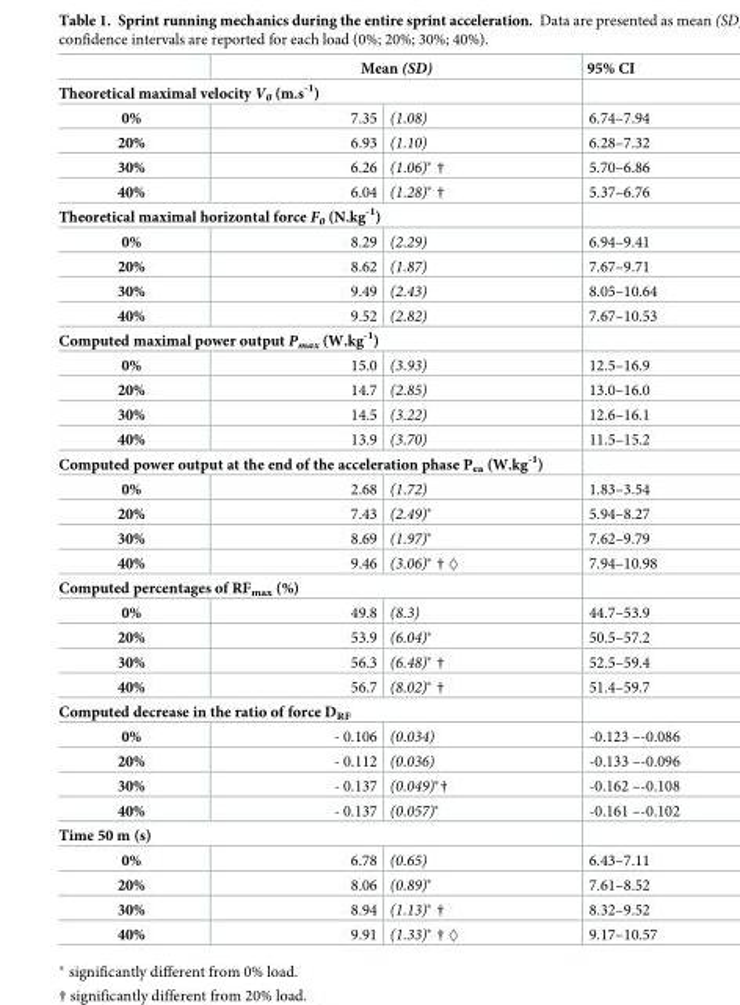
<table><thead><tr><td></td><td colspan="2">Mean (SD)</td><td rowspan="3">95% CI 6.74–7.94</td></tr><tr><td colspan="3">Theoretical maximal velocity V<sub>0</sub> (m.s<sup>-1</sup>)</td></tr><tr><td>0%</td><td>7.35</td><td>(1.08)</td></tr></thead><tbody><tr><td>20%</td><td>6.93</td><td>(1.10)</td><td>6.28–7.32</td></tr><tr><td>30%</td><td>6.26</td><td>(1.06)* †</td><td>5.70–6.86</td></tr><tr><td>40%</td><td>6.04</td><td>(1.28)* †</td><td>5.37–6.76</td></tr><tr><td colspan="4">Theoretical maximal horizontal force F<sub>0</sub> (N.kg<sup>-1</sup>)</td></tr><tr><td>0%</td><td>8.29</td><td>(2.29)</td><td>6.94–9.41</td></tr><tr><td>20%</td><td>8.62</td><td>(1.87)</td><td>7.67–9.71</td></tr><tr><td>30%</td><td>9.49</td><td>(2.43)</td><td>8.05–10.64</td></tr><tr><td>40%</td><td>9.52</td><td>(2.82)</td><td>7.67–10.53</td></tr><tr><td colspan="4">Computed maximal power output P<sub>max</sub> (W.kg<sup>-1</sup>)</td></tr><tr><td>0%</td><td>15.0</td><td>(3.93)</td><td>12.5–16.9</td></tr><tr><td>20%</td><td>14.7</td><td>(2.85)</td><td>13.0–16.0</td></tr><tr><td>30%</td><td>14.5</td><td>(3.22)</td><td>12.6–16.1</td></tr><tr><td>40%</td><td>13.9</td><td>(3.70)</td><td>11.5–15.2</td></tr><tr><td colspan="4">Computed power output at the end of the acceleration phase P<sub>ea</sub> (W.kg<sup>-1</sup>)</td></tr><tr><td>0%</td><td>2.68</td><td>(1.72)</td><td>1.83–3.54</td></tr><tr><td>20%</td><td>7.43</td><td>(2.49)*</td><td>5.94–8.27</td></tr><tr><td>30%</td><td>8.69</td><td>(1.97)*</td><td>7.62–9.79</td></tr><tr><td>40%</td><td>9.46</td><td>(3.06)* † ◊</td><td>7.94–10.98</td></tr><tr><td colspan="4">Computed percentages of RF<sub>max</sub> (%)</td></tr><tr><td>0%</td><td>49.8</td><td>(8.3)</td><td>44.7–53.9</td></tr><tr><td>20%</td><td>53.9</td><td>(6.04)*</td><td>50.5–57.2</td></tr><tr><td>30%</td><td>56.3</td><td>(6.48)* †</td><td>52.5–59.4</td></tr><tr><td>40%</td><td>56.7</td><td>(8.02)* †</td><td>51.4–59.7</td></tr><tr><td colspan="4">Computed decrease in the ratio of force D<sub>RF</sub></td></tr><tr><td>0%</td><td>- 0.106</td><td>(0.034)</td><td>-0.123 –-0.086</td></tr><tr><td>20%</td><td>- 0.112</td><td>(0.036)</td><td>-0.133 –-0.096</td></tr><tr><td>30%</td><td>- 0.137</td><td>(0.049)*†</td><td>-0.162 –-0.108</td></tr><tr><td>40%</td><td>- 0.137</td><td>(0.057)*</td><td>-0.161 –-0.102</td></tr><tr><td colspan="4">Time 50 m (s)</td></tr><tr><td>0%</td><td>6.78</td><td>(0.65)</td><td>6.43–7.11</td></tr><tr><td>20%</td><td>8.06</td><td>(0.89)*</td><td>7.61–8.52</td></tr><tr><td>30%</td><td>8.94</td><td>(1.13)* †</td><td>8.32–9.52</td></tr><tr><td>40%</td><td>9.91</td><td>(1.33)* † ◊</td><td>9.17–10.57</td></tr></tbody></table>